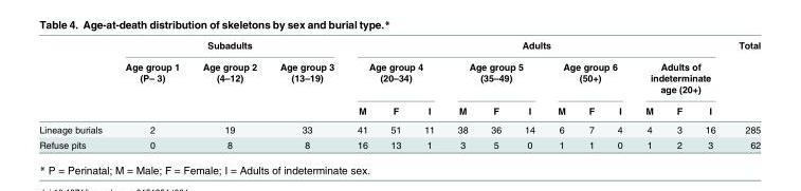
<table><thead><tr><td rowspan="3"></td><td colspan="3">Subadults</td><td colspan="12">Adults</td><td rowspan="3">Total</td></tr><tr><td rowspan="2">Age group 1 (P– 3)</td><td rowspan="2">Age group 2 (4–12)</td><td rowspan="2">Age group 3 (13–19)</td><td colspan="3">Age group 4 (20–34)</td><td colspan="3">Age group 5 (35–49)</td><td colspan="3">Age group 6 (50+)</td><td colspan="3">Adults of indeterminate age (20+)</td></tr><tr><td>M</td><td>F</td><td>I</td><td>M</td><td>F</td><td>I</td><td>M</td><td>F</td><td>I</td><td>M</td><td>F</td><td>I</td></tr></thead><tbody><tr><td>Lineage burials</td><td>2</td><td>19</td><td>33</td><td>41</td><td>51</td><td>11</td><td>38</td><td>36</td><td>14</td><td>6</td><td>7</td><td>4</td><td>4</td><td>3</td><td>16</td><td>285</td></tr><tr><td>Refuse pits</td><td>0</td><td>8</td><td>8</td><td>16</td><td>13</td><td>1</td><td>3</td><td>5</td><td>0</td><td>1</td><td>1</td><td>0</td><td>1</td><td>2</td><td>3</td><td>62</td></tr></tbody></table>